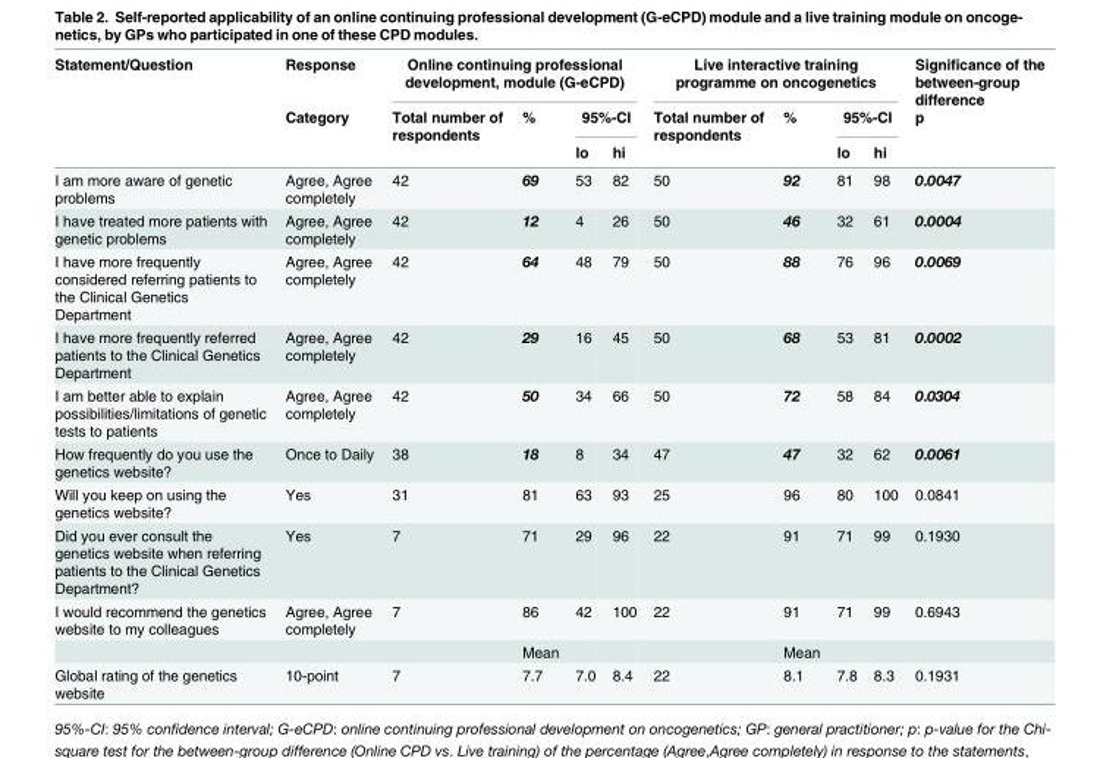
<table><thead><tr><td rowspan="3">Statement/Question</td><td rowspan="3">Response Category</td><td colspan="4">Online continuing professional development, module (G-eCPD)</td><td colspan="4">Live interactive training programme on oncogenetics</td><td rowspan="3">Significance of the between-group difference p</td></tr><tr><td rowspan="2">Total number of respondents</td><td rowspan="2">%</td><td colspan="2">95%-CI</td><td rowspan="2">Total number of respondents</td><td rowspan="2">%</td><td colspan="2">95%-CI</td></tr><tr><td>lo</td><td>hi</td><td>lo</td><td>hi</td></tr></thead><tbody><tr><td>I am more aware of genetic problems</td><td>Agree, Agree completely</td><td>42</td><td>69</td><td>53</td><td>82</td><td>50</td><td>92</td><td>81</td><td>98</td><td>0.0047</td></tr><tr><td>I have treated more patients with genetic problems</td><td>Agree, Agree completely</td><td>42</td><td>12</td><td>4</td><td>26</td><td>50</td><td>46</td><td>32</td><td>61</td><td>0.0004</td></tr><tr><td>I have more frequently considered referring patients to the Clinical Genetics Department</td><td>Agree, Agree completely</td><td>42</td><td>64</td><td>48</td><td>79</td><td>50</td><td>88</td><td>76</td><td>96</td><td>0.0069</td></tr><tr><td>I have more frequently referred patients to the Clinical Genetics Department</td><td>Agree, Agree completely</td><td>42</td><td>29</td><td>16</td><td>45</td><td>50</td><td>68</td><td>53</td><td>81</td><td>0.0002</td></tr><tr><td>I am better able to explain possibilities/limitations of genetic tests to patients</td><td>Agree, Agree completely</td><td>42</td><td>50</td><td>34</td><td>66</td><td>50</td><td>72</td><td>58</td><td>84</td><td>0.0304</td></tr><tr><td>How frequently do you use the genetics website?</td><td>Once to Daily</td><td>38</td><td>18</td><td>8</td><td>34</td><td>47</td><td>47</td><td>32</td><td>62</td><td>0.0061</td></tr><tr><td>Will you keep on using the genetics website?</td><td>Yes</td><td>31</td><td>81</td><td>63</td><td>93</td><td>25</td><td>96</td><td>80</td><td>100</td><td>0.0841</td></tr><tr><td>Did you ever consult the genetics website when referring patients to the Clinical Genetics Department?</td><td>Yes</td><td>7</td><td>71</td><td>29</td><td>96</td><td>22</td><td>91</td><td>71</td><td>99</td><td>0.1930</td></tr><tr><td rowspan="2">I would recommend the genetics website to my colleagues</td><td>Agree, Agree completely</td><td>7</td><td>86</td><td>42</td><td>100</td><td>22</td><td>91</td><td>71</td><td>99</td><td>0.6943</td></tr><tr><td></td><td></td><td>Mean</td><td></td><td></td><td></td><td>Mean</td><td></td><td></td><td></td></tr><tr><td>Global rating of the genetics website</td><td>10-point</td><td>7</td><td>7.7</td><td>7.0</td><td>8.4</td><td>22</td><td>8.1</td><td>7.8</td><td>8.3</td><td>0.1931</td></tr></tbody></table>